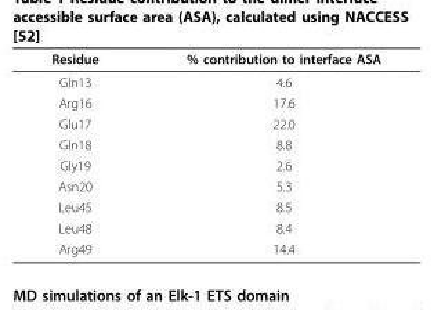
<table><thead><tr><td>Residue</td><td>% contribution to interface ASA</td></tr></thead><tbody><tr><td>Gln13</td><td>4.6</td></tr><tr><td>Arg16</td><td>17.6</td></tr><tr><td>Glu17</td><td>22.0</td></tr><tr><td>Gln18</td><td>8.8</td></tr><tr><td>Gly19</td><td>2.6</td></tr><tr><td>Asn20</td><td>5.3</td></tr><tr><td>Leu45</td><td>8.5</td></tr><tr><td>Leu48</td><td>8.4</td></tr><tr><td>Arg49</td><td>14.4</td></tr></tbody></table>